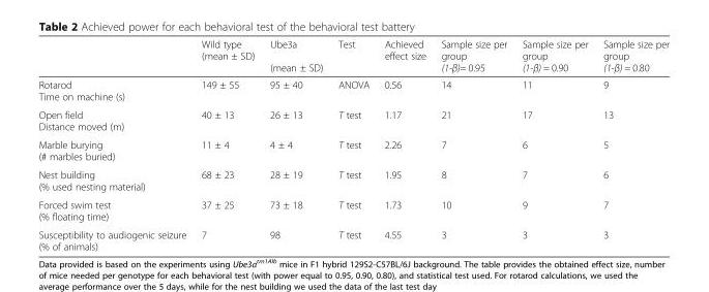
<table><thead><tr><td></td><td>Wild type (mean ± SD)</td><td>Ube3a (mean ± SD)</td><td>Test</td><td>Achieved effect size</td><td>Sample size per group (1-β)= 0.95</td><td>Sample size per group (1-β) = 0.90</td><td>Sample size per group (1-β) = 0.80</td></tr></thead><tbody><tr><td>Rotarod Time on machine (s)</td><td>149 ± 55</td><td>95 ± 40</td><td>ANOVA</td><td>0.56</td><td>14</td><td>11</td><td>9</td></tr><tr><td>Open field Distance moved (m)</td><td>40 ± 13</td><td>26 ± 13</td><td>T test</td><td>1.17</td><td>21</td><td>17</td><td>13</td></tr><tr><td>Marble burying (# marbles buried)</td><td>11 ± 4</td><td>4 ± 4</td><td>T test</td><td>2.26</td><td>7</td><td>6</td><td>5</td></tr><tr><td>Nest building (% used nesting material)</td><td>68 ± 23</td><td>28 ± 19</td><td>T test</td><td>1.95</td><td>8</td><td>7</td><td>6</td></tr><tr><td>Forced swim test (% floating time)</td><td>37 ± 25</td><td>73 ± 18</td><td>T test</td><td>1.73</td><td>10</td><td>9</td><td>7</td></tr><tr><td>Susceptibility to audiogenic seizure (% of animals)</td><td>7</td><td>98</td><td>T test</td><td>4.55</td><td>3</td><td>3</td><td>3</td></tr></tbody></table>